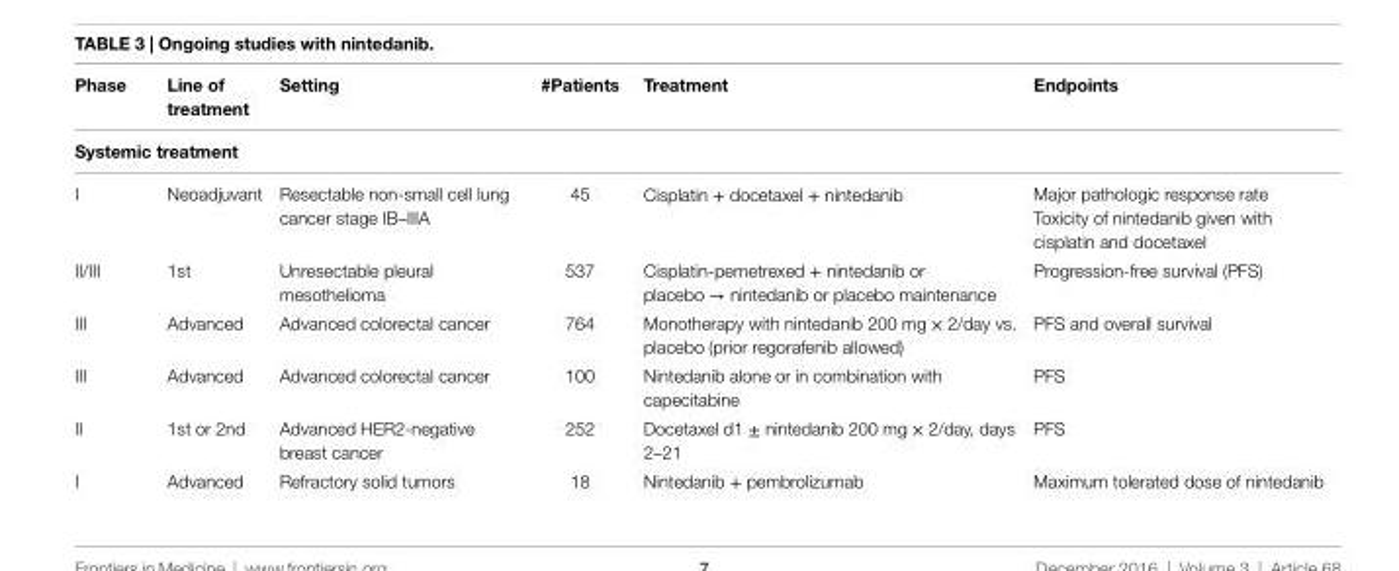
<table><thead><tr><td>Phase</td><td>Line of treatment</td><td>Setting</td><td>#Patients</td><td>Treatment</td><td>endpoints</td></tr><tr><td colspan="6">Systemic treatment</td></tr></thead><tbody><tr><td rowspan="2">I</td><td rowspan="2">Neoadjuvant</td><td rowspan="2">Resectable non-small cell lung cancer stage IB–IIIA</td><td rowspan="2">45</td><td rowspan="2">Cisplatin + docetaxel + nintedanib</td><td>Major pathologic response rate</td></tr><tr><td>Toxicity of nintedanib given with cisplatin and docetaxel</td></tr><tr><td>II/III</td><td>1st</td><td>Unresectable pleural mesothelioma</td><td>537</td><td>Cisplatin-pemetrexed + nintedanib or placebo → nintedanib or placebo maintenance</td><td>Progression-free survival (PFS)</td></tr><tr><td>III</td><td>Advanced</td><td>Advanced colorectal cancer</td><td>764</td><td>Monotherapy with nintedanib 200 mg × 2/day vs. placebo (prior regorafenib allowed)</td><td>PFS and overall survival</td></tr><tr><td>III</td><td>Advanced</td><td>Advanced colorectal cancer</td><td>100</td><td>Nintedanib alone or in combination with capecitabine</td><td>PFS</td></tr><tr><td>II</td><td>1st or 2nd</td><td>Advanced HER2-negative breast cancer</td><td>252</td><td>Docetaxel d1 ± nintedanib 200 mg × 2/day, days 2–21</td><td>PFS</td></tr><tr><td>I</td><td>Advanced</td><td>Refractory solid tumors</td><td>18</td><td>Nintedanib + pembrolizumab</td><td>Maximum tolerated dose of nintedanib</td></tr></tbody></table>